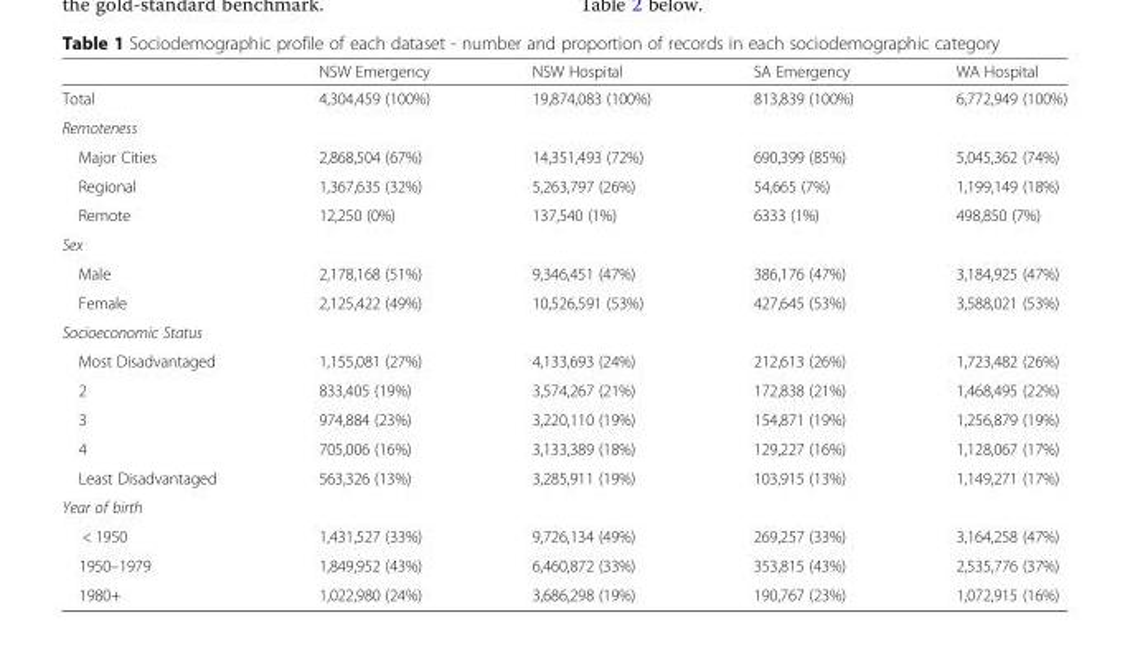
<table><thead><tr><td></td><td>NSW Emergency</td><td>NSW Hospital</td><td>SA Emergency</td><td>WA Hospital</td></tr></thead><tbody><tr><td>Total</td><td>4,304,459 (100%)</td><td>19,874,083 (100%)</td><td>813,839 (100%)</td><td>6,772,949 (100%)</td></tr><tr><td colspan="5">Remoteness</td></tr><tr><td>Major Cities</td><td>2,868,504 (67%)</td><td>14,351,493 (72%)</td><td>690,399 (85%)</td><td>5,045,362 (74%)</td></tr><tr><td>Regional</td><td>1,367,635 (32%)</td><td>5,263,797 (26%)</td><td>54,665 (7%)</td><td>1,199,149 (18%)</td></tr><tr><td>Remote</td><td>12,250 (0%)</td><td>137,540 (1%)</td><td>6333 (1%)</td><td>498,850 (7%)</td></tr><tr><td colspan="5">Sex</td></tr><tr><td>Male</td><td>2,178,168 (51%)</td><td>9,346,451 (47%)</td><td>386,176 (47%)</td><td>3,184,925 (47%)</td></tr><tr><td>Female</td><td>2,125,422 (49%)</td><td>10,526,591 (53%)</td><td>427,645 (53%)</td><td>3,588,021 (53%)</td></tr><tr><td colspan="5">Socioeconomic Status</td></tr><tr><td>Most Disadvantaged</td><td>1,155,081 (27%)</td><td>4,133,693 (24%)</td><td>212,613 (26%)</td><td>1,723,482 (26%)</td></tr><tr><td>2</td><td>833,405 (19%)</td><td>3,574,267 (21%)</td><td>172,838 (21%)</td><td>1,468,495 (22%)</td></tr><tr><td>3</td><td>974,884 (23%)</td><td>3,220,110 (19%)</td><td>154,871 (19%)</td><td>1,256,879 (19%)</td></tr><tr><td>4</td><td>705,006 (16%)</td><td>3,133,389 (18%)</td><td>129,227 (16%)</td><td>1,128,067 (17%)</td></tr><tr><td>Least Disadvantaged</td><td>563,326 (13%)</td><td>3,285,911 (19%)</td><td>103,915 (13%)</td><td>1,149,271 (17%)</td></tr><tr><td colspan="5">Year of birth</td></tr><tr><td>&lt; 1950</td><td>1,431,527 (33%)</td><td>9,726,134 (49%)</td><td>269,257 (33%)</td><td>3,164,258 (47%)</td></tr><tr><td>1950–1979</td><td>1,849,952 (43%)</td><td>6,460,872 (33%)</td><td>353,815 (43%)</td><td>2,535,776 (37%)</td></tr><tr><td>1980+</td><td>1,022,980 (24%)</td><td>3,686,298 (19%)</td><td>190,767 (23%)</td><td>1,072,915 (16%)</td></tr></tbody></table>